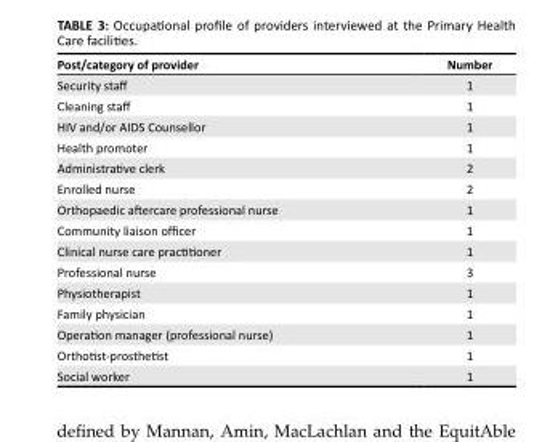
<table><thead><tr><td>Post/category of provider</td><td>Number</td></tr></thead><tbody><tr><td>Security staff</td><td>1</td></tr><tr><td>Cleaning staff</td><td>1</td></tr><tr><td>HIV and/or AIDS Counsellor</td><td>1</td></tr><tr><td>Health promoter</td><td>1</td></tr><tr><td>Administrative clerk</td><td>2</td></tr><tr><td>Enrolled nurse</td><td>2</td></tr><tr><td>Orthopaedic aftercare professional nurse</td><td>1</td></tr><tr><td>Community liaison officer</td><td>1</td></tr><tr><td>Clinical nurse care practitioner</td><td>1</td></tr><tr><td>Professional nurse</td><td>3</td></tr><tr><td>Physiotherapist</td><td>1</td></tr><tr><td>Family physician</td><td>1</td></tr><tr><td>Operation manager (professional nurse)</td><td>1</td></tr><tr><td>Orthotist-prosthetist</td><td>1</td></tr><tr><td>Social worker</td><td>1</td></tr></tbody></table>